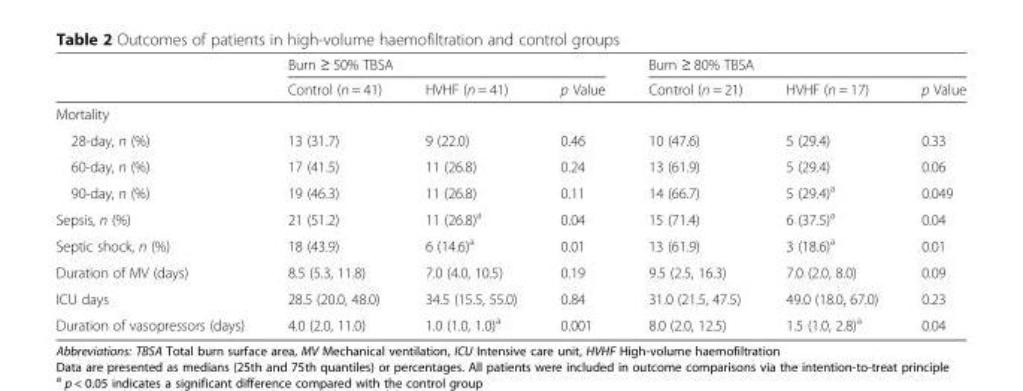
<table><thead><tr><td rowspan="2"></td><td colspan="3">Burn ≥ 50% TBSA</td><td colspan="3">Burn ≥ 80% TBSA</td></tr><tr><td>Control (n = 41)</td><td>HVHF (n = 41)</td><td>p Value</td><td>Control (n = 21)</td><td>HVHF (n = 17)</td><td>p Value</td></tr></thead><tbody><tr><td colspan="7">Mortality</td></tr><tr><td>28-day, n (%)</td><td>13 (31.7)</td><td>9 (22.0)</td><td>0.46</td><td>10 (47.6)</td><td>5 (29.4)</td><td>0.33</td></tr><tr><td>60-day, n (%)</td><td>17 (41.5)</td><td>11 (26.8)</td><td>0.24</td><td>13 (61.9)</td><td>5 (29.4)</td><td>0.06</td></tr><tr><td>90-day, n (%)</td><td>19 (46.3)</td><td>11 (26.8)</td><td>0.11</td><td>14 (66.7)</td><td>5 (29.4)<sup>a</sup></td><td>0.049</td></tr><tr><td>Sepsis, n (%)</td><td>21 (51.2)</td><td>11 (26.8)<sup>a</sup></td><td>0.04</td><td>15 (71.4)</td><td>6 (37.5)<sup>a</sup></td><td>0.04</td></tr><tr><td>Septic shock, n (%)</td><td>18 (43.9)</td><td>6 (14.6)<sup>a</sup></td><td>0.01</td><td>13 (61.9)</td><td>3 (18.6)<sup>a</sup></td><td>0.01</td></tr><tr><td>Duration of MV (days)</td><td>8.5 (5.3, 11.8)</td><td>7.0 (4.0, 10.5)</td><td>0.19</td><td>9.5 (2.5, 16.3)</td><td>7.0 (2.0, 8.0)</td><td>0.09</td></tr><tr><td>ICU days</td><td>28.5 (20.0, 48.0)</td><td>34.5 (15.5, 55.0)</td><td>0.84</td><td>31.0 (21.5, 47.5)</td><td>49.0 (18.0, 67.0)</td><td>0.23</td></tr><tr><td>Duration of vasopressors (days)</td><td>4.0 (2.0, 11.0)</td><td>1.0 (1.0, 1.0)<sup>a</sup></td><td>0.001</td><td>8.0 (2.0, 12.5)</td><td>1.5 (1.0, 2.8)<sup>a</sup></td><td>0.04</td></tr></tbody></table>